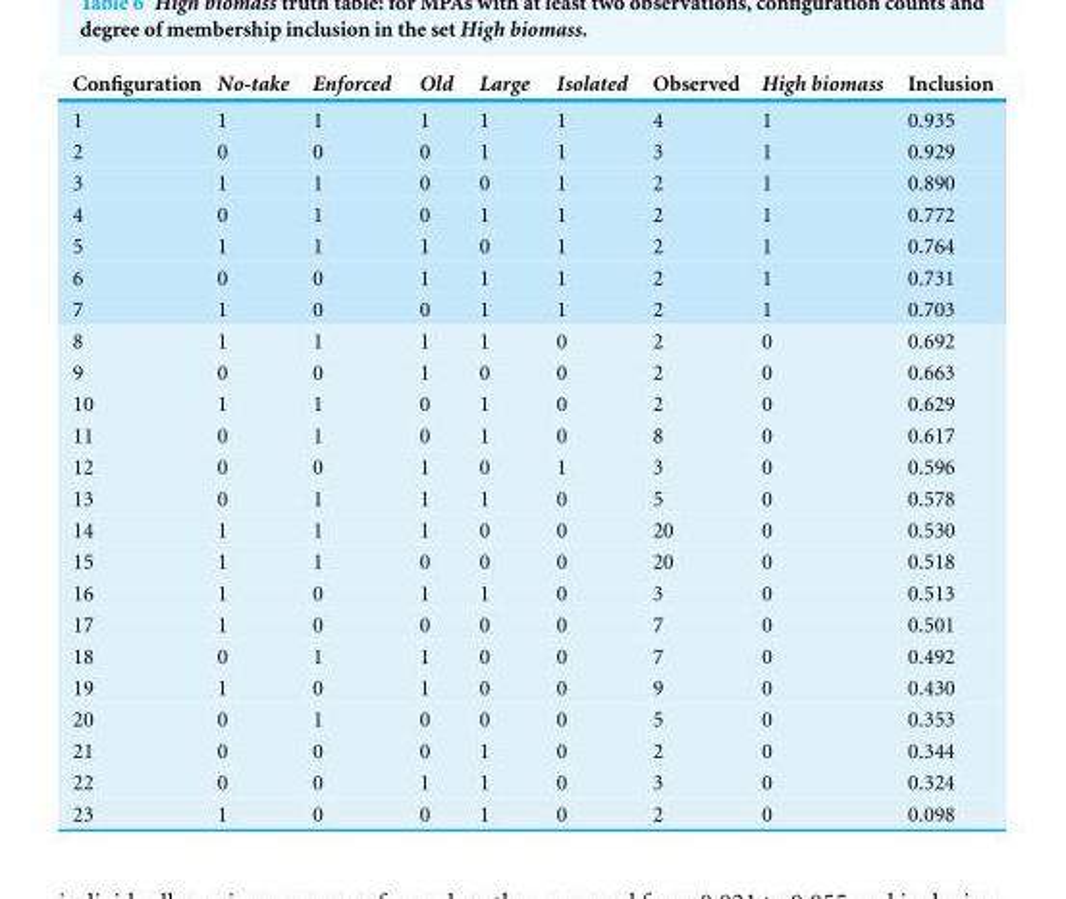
<table><thead><tr><td>Configuration</td><td>No-take</td><td>Enforced</td><td>Old</td><td>Large</td><td>Isolated</td><td>Observed</td><td>High biomass</td><td>Inclusion</td></tr></thead><tbody><tr><td>1</td><td>1</td><td>1</td><td>1</td><td>1</td><td>1</td><td>4</td><td>1</td><td>0.935</td></tr><tr><td>2</td><td>0</td><td>0</td><td>0</td><td>1</td><td>1</td><td>3</td><td>1</td><td>0.929</td></tr><tr><td>3</td><td>1</td><td>1</td><td>0</td><td>0</td><td>1</td><td>2</td><td>1</td><td>0.890</td></tr><tr><td>4</td><td>0</td><td>1</td><td>0</td><td>1</td><td>1</td><td>2</td><td>1</td><td>0.772</td></tr><tr><td>5</td><td>1</td><td>1</td><td>1</td><td>0</td><td>1</td><td>2</td><td>1</td><td>0.764</td></tr><tr><td>6</td><td>0</td><td>0</td><td>1</td><td>1</td><td>1</td><td>2</td><td>1</td><td>0.731</td></tr><tr><td>7</td><td>1</td><td>0</td><td>0</td><td>1</td><td>1</td><td>2</td><td>1</td><td>0.703</td></tr><tr><td>8</td><td>1</td><td>1</td><td>1</td><td>1</td><td>0</td><td>2</td><td>0</td><td>0.692</td></tr><tr><td>9</td><td>0</td><td>0</td><td>1</td><td>0</td><td>0</td><td>2</td><td>0</td><td>0.663</td></tr><tr><td>10</td><td>1</td><td>1</td><td>0</td><td>1</td><td>0</td><td>2</td><td>0</td><td>0.629</td></tr><tr><td>11</td><td>0</td><td>1</td><td>0</td><td>1</td><td>0</td><td>8</td><td>0</td><td>0.617</td></tr><tr><td>12</td><td>0</td><td>0</td><td>1</td><td>0</td><td>1</td><td>3</td><td>0</td><td>0.596</td></tr><tr><td>13</td><td>0</td><td>1</td><td>1</td><td>1</td><td>0</td><td>5</td><td>0</td><td>0.578</td></tr><tr><td>14</td><td>1</td><td>1</td><td>1</td><td>0</td><td>0</td><td>20</td><td>0</td><td>0.530</td></tr><tr><td>15</td><td>1</td><td>1</td><td>0</td><td>0</td><td>0</td><td>20</td><td>0</td><td>0.518</td></tr><tr><td>16</td><td>1</td><td>0</td><td>1</td><td>1</td><td>0</td><td>3</td><td>0</td><td>0.513</td></tr><tr><td>17</td><td>1</td><td>0</td><td>0</td><td>0</td><td>0</td><td>7</td><td>0</td><td>0.501</td></tr><tr><td>18</td><td>0</td><td>1</td><td>1</td><td>0</td><td>0</td><td>7</td><td>0</td><td>0.492</td></tr><tr><td>19</td><td>1</td><td>0</td><td>1</td><td>0</td><td>0</td><td>9</td><td>0</td><td>0.430</td></tr><tr><td>20</td><td>0</td><td>1</td><td>0</td><td>0</td><td>0</td><td>5</td><td>0</td><td>0.353</td></tr><tr><td>21</td><td>0</td><td>0</td><td>0</td><td>1</td><td>0</td><td>2</td><td>0</td><td>0.344</td></tr><tr><td>22</td><td>0</td><td>0</td><td>1</td><td>1</td><td>0</td><td>3</td><td>0</td><td>0.324</td></tr><tr><td>23</td><td>1</td><td>0</td><td>0</td><td>1</td><td>0</td><td>2</td><td>0</td><td>0.098</td></tr></tbody></table>